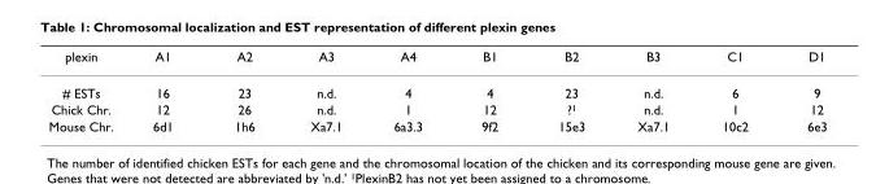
<table><thead><tr><td>plexin</td><td>A1</td><td>A2</td><td>A3</td><td>A4</td><td>B1</td><td>B2</td><td>B3</td><td>C1</td><td>D1</td></tr></thead><tbody><tr><td># ESTs</td><td>16</td><td>23</td><td>n.d.</td><td>4</td><td>4</td><td>23</td><td>n.d.</td><td>6</td><td>9</td></tr><tr><td>Chick Chr.</td><td>12</td><td>26</td><td>n.d.</td><td>1</td><td>12</td><td>?<sup>1</sup></td><td>n.d.</td><td>1</td><td>12</td></tr><tr><td>Mouse Chr.</td><td>6d1</td><td>1h6</td><td>Xa7.1</td><td>6a3.3</td><td>9f2</td><td>15e3</td><td>Xa7.1</td><td>10c2</td><td>6e3</td></tr></tbody></table>